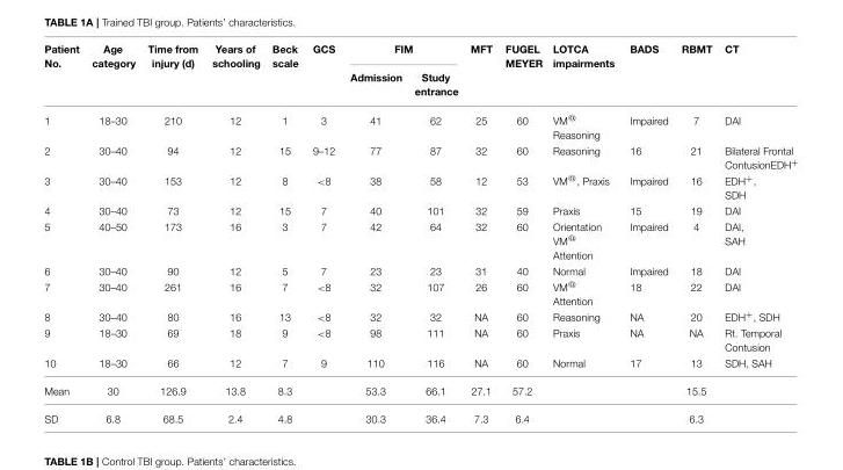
<table><thead><tr><td rowspan="2">Patient No.</td><td rowspan="2">Age category</td><td rowspan="2">Time from injury (d)</td><td rowspan="2">Years of schooling</td><td rowspan="2">Beck scale</td><td rowspan="2">GCS</td><td colspan="2">FIM</td><td rowspan="2">MFT</td><td rowspan="2">FUGEL MEYER</td><td rowspan="2">LOTCA impairments</td><td rowspan="2">BADS</td><td rowspan="2">RBMT</td><td rowspan="2">CT</td></tr><tr><td>Admission</td><td>Study entrance</td></tr></thead><tbody><tr><td>1</td><td>18–30</td><td>210</td><td>12</td><td>1</td><td>3</td><td>41</td><td>62</td><td>25</td><td>60</td><td>VM<sup>@</sup> Reasoning</td><td>Impaired</td><td>7</td><td>DAI</td></tr><tr><td>2</td><td>30–40</td><td>94</td><td>12</td><td>15</td><td>9–12</td><td>77</td><td>87</td><td>32</td><td>60</td><td>Reasoning</td><td>16</td><td>21</td><td>Bilateral Frontal ContusionEDH<sup>+</sup></td></tr><tr><td>3</td><td>30–40</td><td>153</td><td>12</td><td>8</td><td>&lt;8</td><td>38</td><td>58</td><td>12</td><td>53</td><td>VM<sup>@</sup>, Praxis</td><td>Impaired</td><td>16</td><td>EDH<sup>+</sup>, SDH</td></tr><tr><td>4</td><td>30–40</td><td>73</td><td>12</td><td>15</td><td>7</td><td>40</td><td>101</td><td>32</td><td>59</td><td>Praxis</td><td>15</td><td>19</td><td>DAI</td></tr><tr><td>5</td><td>40–50</td><td>173</td><td>16</td><td>3</td><td>7</td><td>42</td><td>64</td><td>32</td><td>60</td><td>Orientation VM<sup>@</sup> Attention</td><td>Impaired</td><td>4</td><td>DAI, SAH</td></tr><tr><td>6</td><td>30–40</td><td>90</td><td>12</td><td>5</td><td>7</td><td>23</td><td>23</td><td>31</td><td>40</td><td>Normal</td><td>Impaired</td><td>18</td><td>DAI</td></tr><tr><td>7</td><td>30–40</td><td>261</td><td>16</td><td>7</td><td>&lt;8</td><td>32</td><td>107</td><td>26</td><td>60</td><td>VM<sup>@</sup> Attention</td><td>18</td><td>22</td><td>DAI</td></tr><tr><td>8</td><td>30–40</td><td>80</td><td>16</td><td>13</td><td>&lt;8</td><td>32</td><td>32</td><td>NA</td><td>60</td><td>Reasoning</td><td>NA</td><td>20</td><td>EDH<sup>+</sup>, SDH</td></tr><tr><td>9</td><td>18–30</td><td>69</td><td>18</td><td>9</td><td>&lt;8</td><td>98</td><td>111</td><td>NA</td><td>60</td><td>Praxis</td><td>NA</td><td>NA</td><td>Rt. Temporal Contusion</td></tr><tr><td>10</td><td>18–30</td><td>66</td><td>12</td><td>7</td><td>9</td><td>110</td><td>116</td><td>NA</td><td>60</td><td>Normal</td><td>17</td><td>13</td><td>SDH, SAH</td></tr><tr><td>Mean</td><td>30</td><td>126.9</td><td>13.8</td><td>8.3</td><td></td><td>53.3</td><td>66.1</td><td>27.1</td><td>57.2</td><td></td><td></td><td>15.5</td><td></td></tr><tr><td>SD</td><td>6.8</td><td>68.5</td><td>2.4</td><td>4.8</td><td></td><td>30.3</td><td>36.4</td><td>7.3</td><td>6.4</td><td></td><td></td><td>6.3</td><td></td></tr></tbody></table>